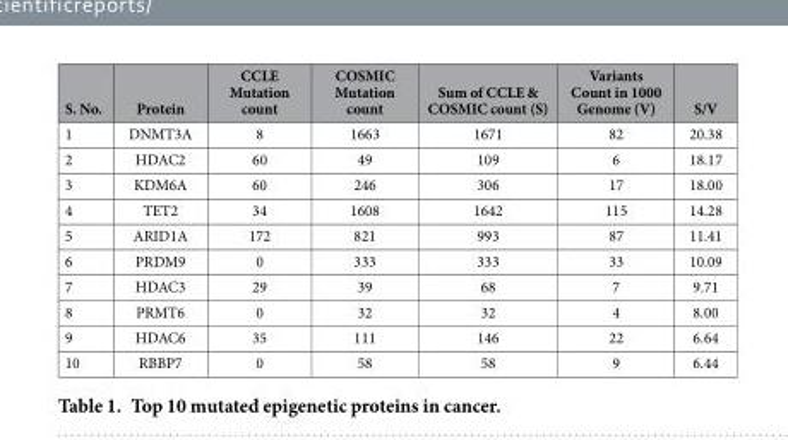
<table><thead><tr><td>S. No.</td><td>Protein</td><td>CCLE Mutation count</td><td>COSMIC Mutation count</td><td>Sum of CCLE &amp; COSMIC count (S)</td><td>Variants Count in 1000 Genome (V)</td><td>S/V</td></tr></thead><tbody><tr><td>1</td><td>DNMT3A</td><td>8</td><td>1663</td><td>1671</td><td>82</td><td>20.38</td></tr><tr><td>2</td><td>HDAC2</td><td>60</td><td>49</td><td>109</td><td>6</td><td>18.17</td></tr><tr><td>3</td><td>KDM6A</td><td>60</td><td>246</td><td>306</td><td>17</td><td>18.00</td></tr><tr><td>4</td><td>TET2</td><td>34</td><td>1608</td><td>1642</td><td>115</td><td>14.28</td></tr><tr><td>5</td><td>ARID1A</td><td>172</td><td>821</td><td>993</td><td>87</td><td>11.41</td></tr><tr><td>6</td><td>PRDM9</td><td>0</td><td>333</td><td>333</td><td>33</td><td>10.09</td></tr><tr><td>7</td><td>HDAC3</td><td>29</td><td>39</td><td>68</td><td>7</td><td>9.71</td></tr><tr><td>8</td><td>PRMT6</td><td>0</td><td>32</td><td>32</td><td>4</td><td>8.00</td></tr><tr><td>9</td><td>HDAC6</td><td>35</td><td>111</td><td>146</td><td>22</td><td>6.64</td></tr><tr><td>10</td><td>RBBP7</td><td>0</td><td>58</td><td>58</td><td>9</td><td>6.44</td></tr></tbody></table>